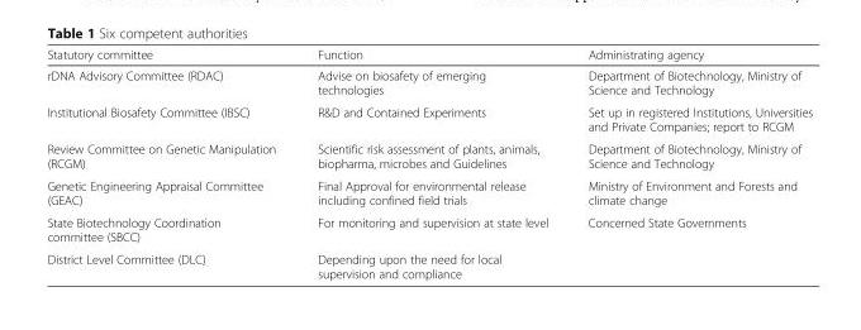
<table><thead><tr><td>Statutory committee</td><td>Function</td><td>Administrating agency</td></tr></thead><tbody><tr><td>rDNA Advisory Committee (RDAC)</td><td>Advise on biosafety of emerging technologies</td><td>Department of Biotechnology, Ministry of Science and Technology</td></tr><tr><td>Institutional Biosafety Committee (IBSC)</td><td>R&amp;D and Contained Experiments</td><td>Set up in registered Institutions, Universities and Private Companies; report to RCGM</td></tr><tr><td>Review Committee on Genetic Manipulation (RCGM)</td><td>Scientific risk assessment of plants, animals, biopharma, microbes and Guidelines</td><td>Department of Biotechnology, Ministry of Science and Technology</td></tr><tr><td>Genetic Engineering Appraisal Committee (GEAC)</td><td>Final Approval for environmental release including confined field trials</td><td>Ministry of Environment and Forests and climate change</td></tr><tr><td>State Biotechnology Coordination committee (SBCC)</td><td>For monitoring and supervision at state level</td><td rowspan="2">Concerned State Governments</td></tr><tr><td>District Level Committee (DLC)</td><td>Depending upon the need for local supervision and compliance</td></tr></tbody></table>